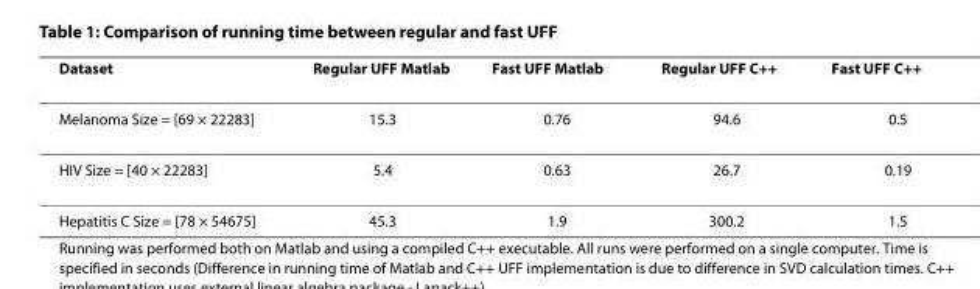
<table><thead><tr><td>Dataset</td><td>Regular UFF Matlab</td><td>Fast UFF Matlab</td><td>Regular UFF C++</td><td>Fast UFF C++</td></tr></thead><tbody><tr><td>Melanoma Size = [69 × 22283]</td><td>15.3</td><td>0.76</td><td>94.6</td><td>0.5</td></tr><tr><td>HIV Size = [40 × 22283]</td><td>5.4</td><td>0.63</td><td>26.7</td><td>0.19</td></tr><tr><td>Hepatitis C Size = [78 × 54675]</td><td>45.3</td><td>1.9</td><td>300.2</td><td>1.5</td></tr></tbody></table>